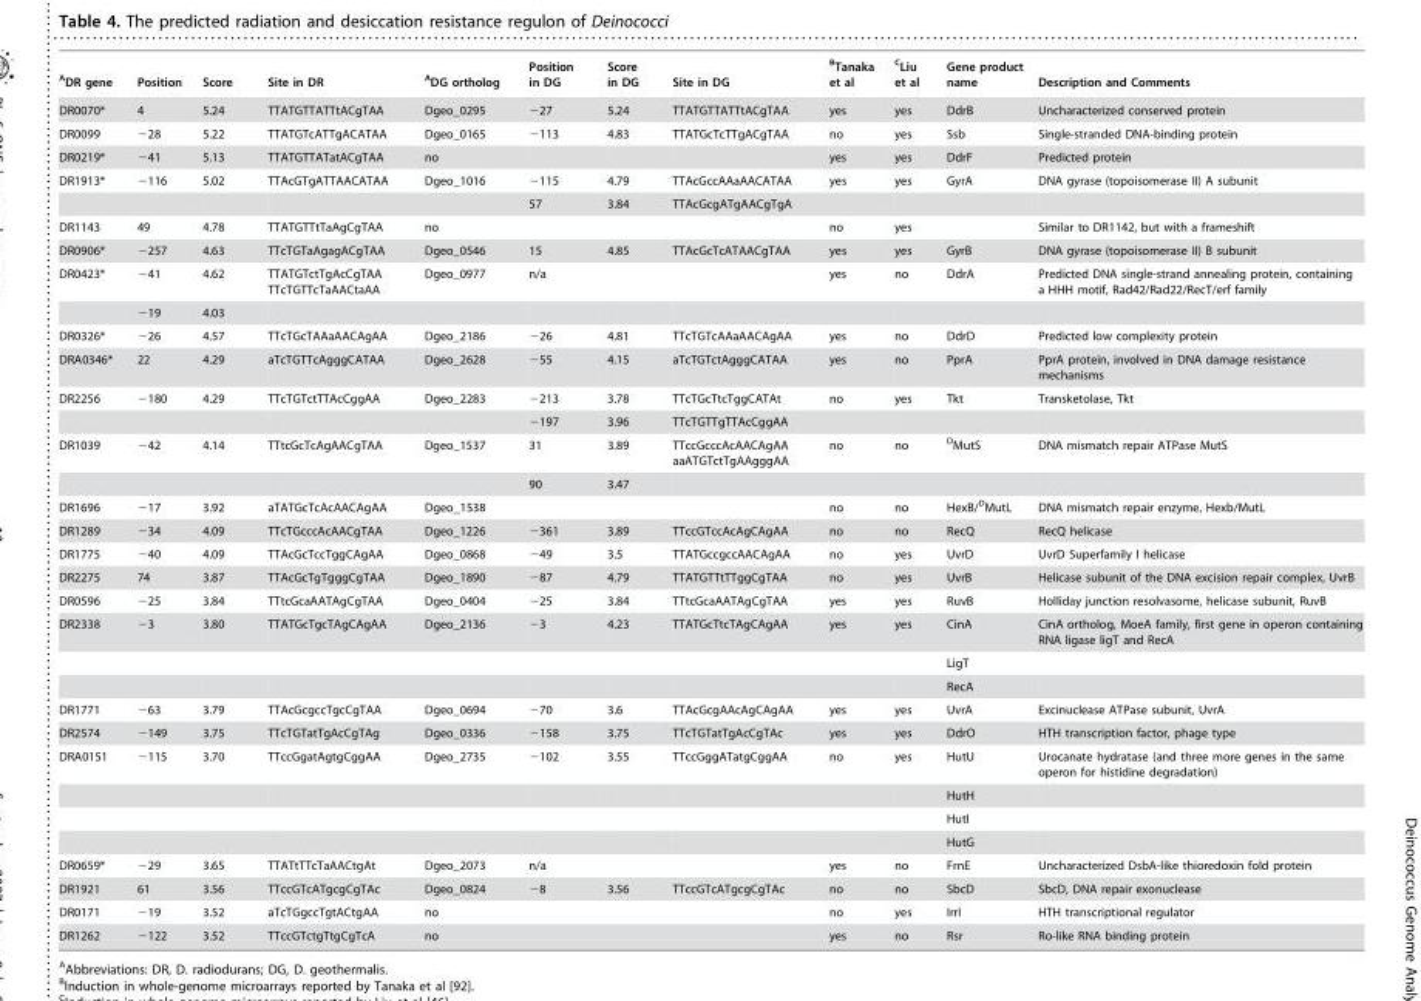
<table><thead><tr><td>ADR gene</td><td>Position</td><td>Score</td><td>Site in DR</td><td>ADG ortholog</td><td>Position in DG</td><td>Score in DG</td><td>Site in DG</td><td>BTanaka et al</td><td>CLiu et al</td><td>Gene product name</td><td>Description and Comments</td></tr></thead><tbody><tr><td>DR0070*</td><td>4</td><td>5.24</td><td>TTATGTTATTtACgTAA</td><td>Dgeo_0295</td><td>−27</td><td>5.24</td><td>TTATGTTATTtACgTAA</td><td>yes</td><td>yes</td><td>DdrB</td><td>Uncharacterized conserved protein</td></tr><tr><td>DR0099</td><td>−28</td><td>5.22</td><td>TTATGTcATTgACATAA</td><td>Dgeo_0165</td><td>−113</td><td>4.83</td><td>TTATGcTcTTgACgTAA</td><td>no</td><td>yes</td><td>Ssb</td><td>Single-stranded DNA-binding protein</td></tr><tr><td>DR0219*</td><td>−41</td><td>5.13</td><td>TTATGTTATatACgTAA</td><td>no</td><td></td><td></td><td></td><td>yes</td><td>yes</td><td>DdrF</td><td>Predicted protein</td></tr><tr><td rowspan="2">DR1913*</td><td>−116</td><td>5.02</td><td>TTAcGTgATTAACATAA</td><td>Dgeo_1016</td><td>−115</td><td>4.79</td><td>TTAcGccAAaAACATAA</td><td>yes</td><td>yes</td><td>GyrA</td><td>DNA gyrase (topoisomerase II) A subunit</td></tr><tr><td></td><td></td><td></td><td></td><td>57</td><td>3.84</td><td>TTAcGcgATgAACgTgA</td><td></td><td></td><td></td><td></td></tr><tr><td>DR1143</td><td>49</td><td>4.78</td><td>TTATGTTtTaAgCgTAA</td><td>no</td><td></td><td></td><td></td><td>no</td><td>yes</td><td></td><td>Similar to DR1142, but with a frameshift</td></tr><tr><td>DR0906*</td><td>−257</td><td>4.63</td><td>TTcTGTaAgagACgTAA</td><td>Dgeo_0546</td><td>15</td><td>4.85</td><td>TTAcGcTcATAACgTAA</td><td>yes</td><td>yes</td><td>GyrB</td><td>DNA gyrase (topoisomerase II) B subunit</td></tr><tr><td rowspan="2">DR0423*</td><td>−41</td><td>4.62</td><td>TTATGTctTgAcCgTAA TTcTGTTcTaAACtaAA</td><td>Dgeo_0977</td><td>n/a</td><td></td><td></td><td>yes</td><td>no</td><td>DdrA</td><td>Predicted DNA single-strand annealing protein, containing a HHH motif, Rad42/Rad22/RecT/erf family</td></tr><tr><td>−19</td><td>4.03</td><td></td><td></td><td></td><td></td><td></td><td></td><td></td><td></td><td></td></tr><tr><td>DR0326*</td><td>−26</td><td>4.57</td><td>TTcTGcTAAaAACAgAA</td><td>Dgeo_2186</td><td>−26</td><td>4.81</td><td>TTcTGTcAAaAACAgAA</td><td>yes</td><td>no</td><td>DdrD</td><td>Predicted low complexity protein</td></tr><tr><td>DRA0346*</td><td>22</td><td>4.29</td><td>aTcTGTTcAgggCATAA</td><td>Dgeo_2628</td><td>−55</td><td>4.15</td><td>aTcTGTctAgggCATAA</td><td>yes</td><td>no</td><td>PprA</td><td>PprA protein, involved in DNA damage resistance mechanisms</td></tr><tr><td rowspan="2">DR2256</td><td>−180</td><td>4.29</td><td>TTcTGTctTTAcCggAA</td><td>Dgeo_2283</td><td>−213</td><td>3.78</td><td>TTcTGcTtcTggCATAt</td><td>no</td><td>yes</td><td>Tkt</td><td>Transketolase, Tkt</td></tr><tr><td></td><td></td><td></td><td></td><td>−197</td><td>3.96</td><td>TTcTGTTgTTAcCggAA</td><td></td><td></td><td></td><td></td></tr><tr><td rowspan="2">DR1039</td><td>−42</td><td>4.14</td><td>TTtcGcTcAgAACgTAA</td><td>Dgeo_1537</td><td>31</td><td>3.89</td><td>TTccGcccAcAACAgAA aaATGTctTgAAgggAA</td><td>no</td><td>no</td><td>DMutS</td><td>DNA mismatch repair ATPase MutS</td></tr><tr><td></td><td></td><td></td><td></td><td>90</td><td>3.47</td><td></td><td></td><td></td><td></td><td></td></tr><tr><td>DR1696</td><td>−17</td><td>3.92</td><td>aTATGcTcAcAACAgAA</td><td>Dgeo_1538</td><td></td><td></td><td></td><td>no</td><td>no</td><td>HexB/DMutL</td><td>DNA mismatch repair enzyme, Hexb/MutL</td></tr><tr><td>DR1289</td><td>−34</td><td>4.09</td><td>TTcTGcccAcAACgTAA</td><td>Dgeo_1226</td><td>−361</td><td>3.89</td><td>TTccGTccAcAgCAgAA</td><td>no</td><td>no</td><td>RecQ</td><td>RecQ helicase</td></tr><tr><td>DR1775</td><td>−40</td><td>4.09</td><td>TTAcGcTccTggCAgAA</td><td>Dgeo_0868</td><td>−49</td><td>3.5</td><td>TTATGccgccAACAgAA</td><td>no</td><td>yes</td><td>UvrD</td><td>UvrD Superfamily I helicase</td></tr><tr><td>DR2275</td><td>74</td><td>3.87</td><td>TTAcGcTgTgggCgTAA</td><td>Dgeo_1890</td><td>−87</td><td>4.79</td><td>TTATGTTtTTggCgTAA</td><td>no</td><td>yes</td><td>UvrB</td><td>Helicase subunit of the DNA excision repair complex, UvrB</td></tr><tr><td>DR0596</td><td>−25</td><td>3.84</td><td>TTtcGcaAATAgCgTAA</td><td>Dgeo_0404</td><td>−25</td><td>3.84</td><td>TTtcGcaAATAgCgTAA</td><td>yes</td><td>yes</td><td>RuvB</td><td>Holliday junction resolvasome, helicase subunit, RuvB</td></tr><tr><td rowspan="3">DR2338</td><td>−3</td><td>3.80</td><td>TTATGcTgcTAgCAgAA</td><td>Dgeo_2136</td><td>−3</td><td>4.23</td><td>TTATGcTtcTAgCAgAA</td><td>yes</td><td>yes</td><td>CinA</td><td>CinA ortholog, MoeA family, first gene in operon containing RNA ligase ligT and RecA</td></tr><tr><td></td><td></td><td></td><td></td><td></td><td></td><td></td><td></td><td></td><td>LigT</td><td></td></tr><tr><td></td><td></td><td></td><td></td><td></td><td></td><td></td><td></td><td></td><td>RecA</td><td></td></tr><tr><td>DR1771</td><td>−63</td><td>3.79</td><td>TTAcGcgccTgcCgTAA</td><td>Dgeo_0694</td><td>−70</td><td>3.6</td><td>TTAcGcgAAcAgCAgAA</td><td>yes</td><td>yes</td><td>UvrA</td><td>Excinuclease ATPase subunit, UvrA</td></tr><tr><td>DR2574</td><td>−149</td><td>3.75</td><td>TTcTGTatTgAcCgTAg</td><td>Dgeo_0336</td><td>−158</td><td>3.75</td><td>TTcTGTatTgAcCgTAc</td><td>yes</td><td>yes</td><td>DdrO</td><td>HTH transcription factor, phage type</td></tr><tr><td rowspan="4">DRA0151</td><td>−115</td><td>3.70</td><td>TTccGgatAgtgCggAA</td><td>Dgeo_2735</td><td>−102</td><td>3.55</td><td>TTccGggATatgCggAA</td><td>no</td><td>yes</td><td>HutU</td><td>Urocanate hydratase (and three more genes in the same operon for histidine degradation)</td></tr><tr><td></td><td></td><td></td><td></td><td></td><td></td><td></td><td></td><td></td><td>HutH</td><td></td></tr><tr><td></td><td></td><td></td><td></td><td></td><td></td><td></td><td></td><td></td><td>HutI</td><td></td></tr><tr><td></td><td></td><td></td><td></td><td></td><td></td><td></td><td></td><td></td><td>HutG</td><td></td></tr><tr><td>DR0659*</td><td>−29</td><td>3.65</td><td>TTATtTTcTaAACtgAt</td><td>Dgeo_2073</td><td>n/a</td><td></td><td></td><td>yes</td><td>no</td><td>FrnE</td><td>Uncharacterized DsbA-like thioredoxin fold protein</td></tr><tr><td>DR1921</td><td>61</td><td>3.56</td><td>TTccGTcATgcgCgTAc</td><td>Dgeo_0824</td><td>−8</td><td>3.56</td><td>TTccGTcATgcgCgTAc</td><td>no</td><td>no</td><td>SbcD</td><td>SbcD, DNA repair exonuclease</td></tr><tr><td>DR0171</td><td>−19</td><td>3.52</td><td>aTcTGgccTgtACtgAA</td><td>no</td><td></td><td></td><td></td><td>no</td><td>yes</td><td>IrrI</td><td>HTH transcriptional regulator</td></tr><tr><td>DR1262</td><td>−122</td><td>3.52</td><td>TTccGTctgTtgCgTcA</td><td>no</td><td></td><td></td><td></td><td>yes</td><td>no</td><td>Rsr</td><td>Ro-like RNA binding protein</td></tr></tbody></table>